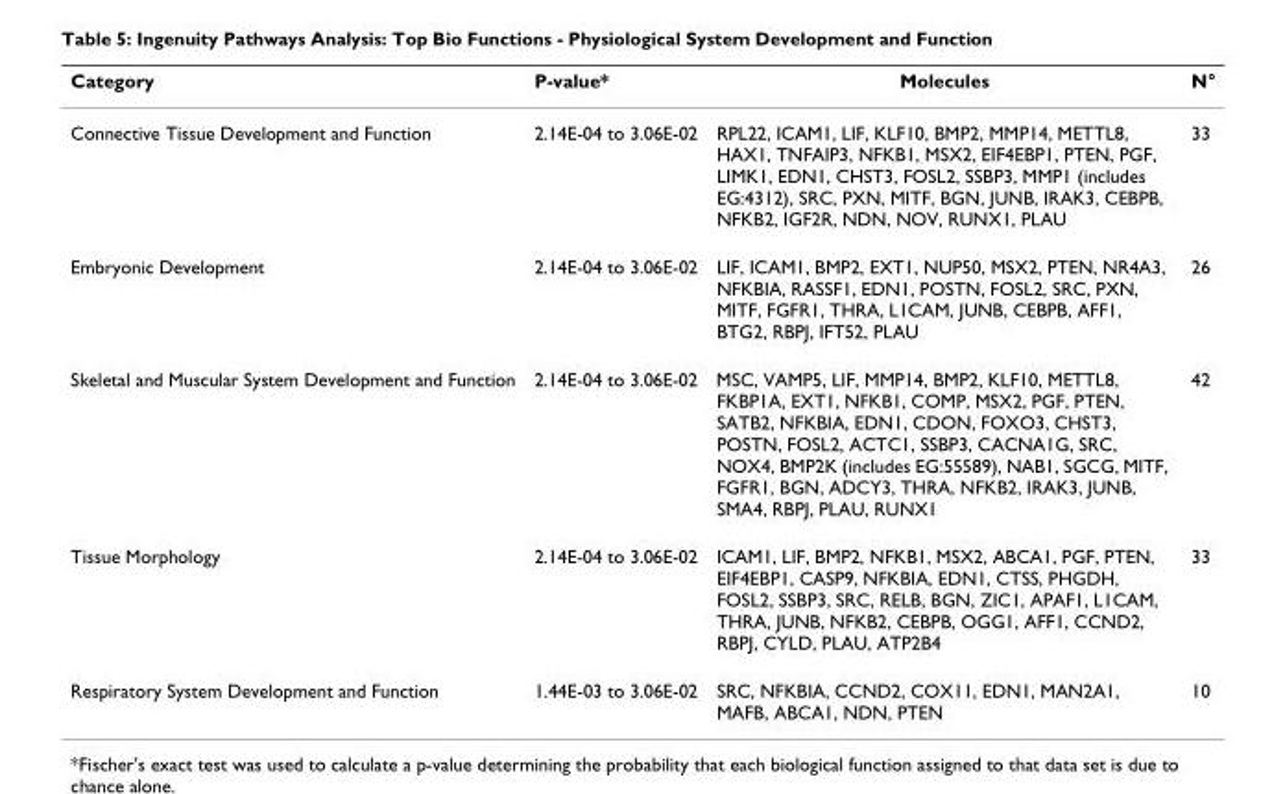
<table><thead><tr><td>Category</td><td>P-value*</td><td>Molecules</td><td>N°</td></tr></thead><tbody><tr><td>Connective Tissue Development and Function</td><td>2.14E-04 to 3.06E-02</td><td>RPL22, ICAM1, LIF, KLF10, BMP2, MMP14, METTL8, HAX1, TNFAIP3, NFKB1, MSX2, EIF4EBP1, PTEN, PGF, LIMK1, EDN1, CHST3, FOSL2, SSBP3, MMP1 (includes EG:4312), SRC, PXN, MITF, BGN, JUNB, IRAK3, CEBPB, NFKB2, IGF2R, NDN, NOV, RUNX1, PLAU</td><td>33</td></tr><tr><td>Embryonic Development</td><td>2.14E-04 to 3.06E-02</td><td>LIF, ICAM1, BMP2, EXT1, NUP50, MSX2, PTEN, NR4A3, NFKBIA, RASSF1, EDN1, POSTN, FOSL2, SRC, PXN, MITF, FGFR1, THRA, L1CAM, JUNB, CEBPB, AFF1, BTG2, RBPJ, IFT52, PLAU</td><td>26</td></tr><tr><td>Skeletal and Muscular System Development and Function</td><td>2.14E-04 to 3.06E-02</td><td>MSC, VAMP5, LIF, MMP14, BMP2, KLF10, METTL8, FKBP1A, EXT1, NFKB1, COMP, MSX2, PGF, PTEN, SATB2, NFKBIA, EDN1, CDON, FOXO3, CHST3, POSTN, FOSL2, ACTC1, SSBP3, CACNA1G, SRC, NOX4, BMP2K (includes EG:55589), NAB1, SGCG, MITF, FGFR1, BGN, ADCY3, THRA, NFKB2, IRAK3, JUNB, SMA4, RBPJ, PLAU, RUNX1</td><td>42</td></tr><tr><td>Tissue Morphology</td><td>2.14E-04 to 3.06E-02</td><td>ICAM1, LIF, BMP2, NFKB1, MSX2, ABCA1, PGF, PTEN, EIF4EBP1, CASP9, NFKBIA, EDN1, CTSS, PHGDH, FOSL2, SSBP3, SRC, RELB, BGN, ZIC1, APAF1, L1CAM, THRA, JUNB, NFKB2, CEBPB, OGG1, AFF1, CCND2, RBPJ, CYLD, PLAU, ATP2B4</td><td>33</td></tr><tr><td>Respiratory System Development and Function</td><td>1.44E-03 to 3.06E-02</td><td>SRC, NFKBIA, CCND2, COX11, EDN1, MAN2A1, MAFB, ABCA1, NDN, PTEN</td><td>10</td></tr></tbody></table>